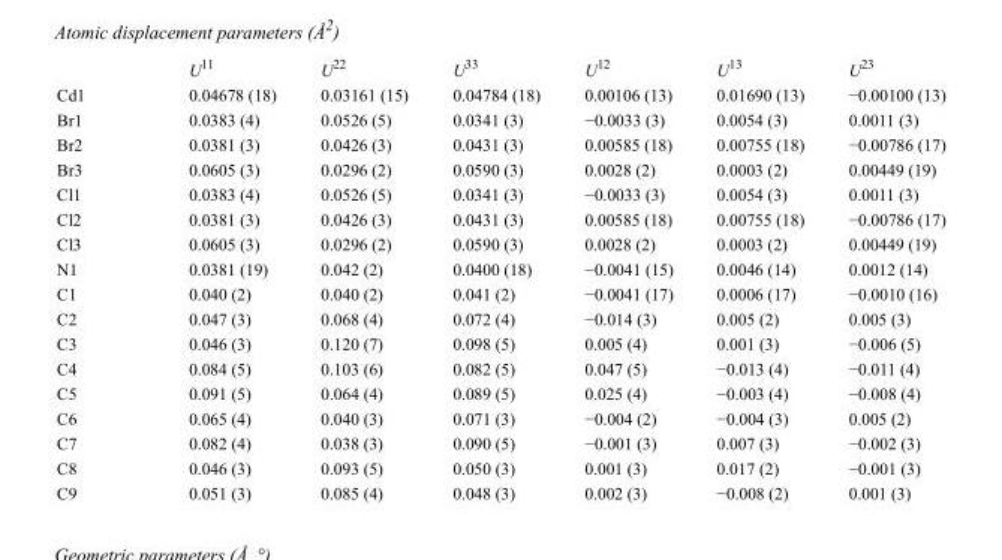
<table><thead><tr><td></td><td>U<sup>11</sup></td><td>U<sup>22</sup></td><td>U<sup>33</sup></td><td>U<sup>12</sup></td><td>U<sup>13</sup></td><td>U<sup>23</sup></td></tr></thead><tbody><tr><td>Cd1</td><td>0.04678 (18)</td><td>0.03161 (15)</td><td>0.04784 (18)</td><td>0.00106 (13)</td><td>0.01690 (13)</td><td>−0.00100 (13)</td></tr><tr><td>Br1</td><td>0.0383 (4)</td><td>0.0526 (5)</td><td>0.0341 (3)</td><td>−0.0033 (3)</td><td>0.0054 (3)</td><td>0.0011 (3)</td></tr><tr><td>Br2</td><td>0.0381 (3)</td><td>0.0426 (3)</td><td>0.0431 (3)</td><td>0.00585 (18)</td><td>0.00755 (18)</td><td>−0.00786 (17)</td></tr><tr><td>Br3</td><td>0.0605 (3)</td><td>0.0296 (2)</td><td>0.0590 (3)</td><td>0.0028 (2)</td><td>0.0003 (2)</td><td>0.00449 (19)</td></tr><tr><td>Cl1</td><td>0.0383 (4)</td><td>0.0526 (5)</td><td>0.0341 (3)</td><td>−0.0033 (3)</td><td>0.0054 (3)</td><td>0.0011 (3)</td></tr><tr><td>Cl2</td><td>0.0381 (3)</td><td>0.0426 (3)</td><td>0.0431 (3)</td><td>0.00585 (18)</td><td>0.00755 (18)</td><td>−0.00786 (17)</td></tr><tr><td>Cl3</td><td>0.0605 (3)</td><td>0.0296 (2)</td><td>0.0590 (3)</td><td>0.0028 (2)</td><td>0.0003 (2)</td><td>0.00449 (19)</td></tr><tr><td>N1</td><td>0.0381 (19)</td><td>0.042 (2)</td><td>0.0400 (18)</td><td>−0.0041 (15)</td><td>0.0046 (14)</td><td>0.0012 (14)</td></tr><tr><td>C1</td><td>0.040 (2)</td><td>0.040 (2)</td><td>0.041 (2)</td><td>−0.0041 (17)</td><td>0.0006 (17)</td><td>−0.0010 (16)</td></tr><tr><td>C2</td><td>0.047 (3)</td><td>0.068 (4)</td><td>0.072 (4)</td><td>−0.014 (3)</td><td>0.005 (2)</td><td>0.005 (3)</td></tr><tr><td>C3</td><td>0.046 (3)</td><td>0.120 (7)</td><td>0.098 (5)</td><td>0.005 (4)</td><td>0.001 (3)</td><td>−0.006 (5)</td></tr><tr><td>C4</td><td>0.084 (5)</td><td>0.103 (6)</td><td>0.082 (5)</td><td>0.047 (5)</td><td>−0.013 (4)</td><td>−0.011 (4)</td></tr><tr><td>C5</td><td>0.091 (5)</td><td>0.064 (4)</td><td>0.089 (5)</td><td>0.025 (4)</td><td>−0.003 (4)</td><td>−0.008 (4)</td></tr><tr><td>C6</td><td>0.065 (4)</td><td>0.040 (3)</td><td>0.071 (3)</td><td>−0.004 (2)</td><td>−0.004 (3)</td><td>0.005 (2)</td></tr><tr><td>C7</td><td>0.082 (4)</td><td>0.038 (3)</td><td>0.090 (5)</td><td>−0.001 (3)</td><td>0.007 (3)</td><td>−0.002 (3)</td></tr><tr><td>C8</td><td>0.046 (3)</td><td>0.093 (5)</td><td>0.050 (3)</td><td>0.001 (3)</td><td>0.017 (2)</td><td>−0.001 (3)</td></tr><tr><td>C9</td><td>0.051 (3)</td><td>0.085 (4)</td><td>0.048 (3)</td><td>0.002 (3)</td><td>−0.008 (2)</td><td>0.001 (3)</td></tr></tbody></table>